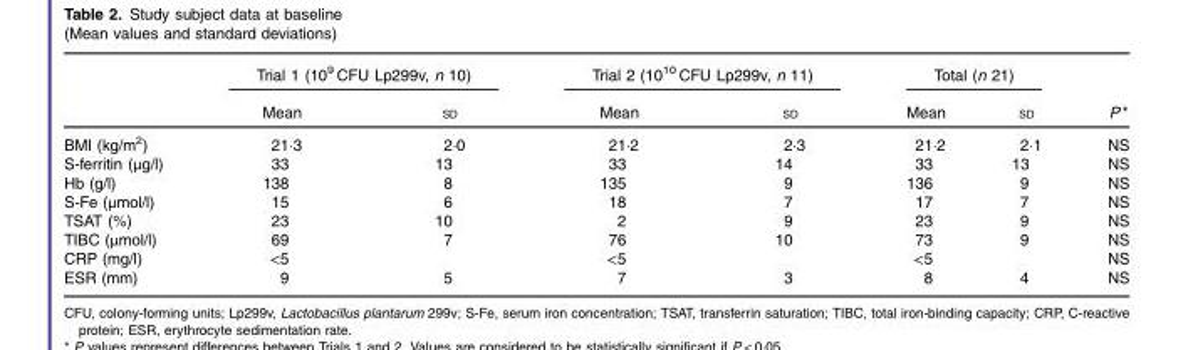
<table><thead><tr><td rowspan="2"></td><td colspan="2">Trial 1 (10<sup>9</sup> CFU Lp299v, n 10)</td><td colspan="2">Trial 2 (10<sup>10</sup> CFU Lp299v, n 11)</td><td colspan="2">Total (n 21)</td><td rowspan="2">P *</td></tr><tr><td>Mean</td><td>SD</td><td>Mean</td><td>SD</td><td>Mean</td><td>SD</td></tr></thead><tbody><tr><td>BMI (kg/m<sup>2</sup>)</td><td>21·3</td><td>2·0</td><td>21·2</td><td>2·3</td><td>21·2</td><td>2·1</td><td>NS</td></tr><tr><td>S-ferritin (μg/l)</td><td>33</td><td>13</td><td>33</td><td>14</td><td>33</td><td>13</td><td>NS</td></tr><tr><td>Hb (g/l)</td><td>138</td><td>8</td><td>135</td><td>9</td><td>136</td><td>9</td><td>NS</td></tr><tr><td>S-Fe (μmol/l)</td><td>15</td><td>6</td><td>18</td><td>7</td><td>17</td><td>7</td><td>NS</td></tr><tr><td>TSAT (%)</td><td>23</td><td>10</td><td>2</td><td>9</td><td>23</td><td>9</td><td>NS</td></tr><tr><td>TIBC (μmol/l)</td><td>69</td><td>7</td><td>76</td><td>10</td><td>73</td><td>9</td><td>NS</td></tr><tr><td>CRP (mg/l)</td><td>&lt;5</td><td></td><td>&lt;5</td><td></td><td>&lt;5</td><td></td><td>NS</td></tr><tr><td>ESR (mm)</td><td>9</td><td>5</td><td>7</td><td>3</td><td>8</td><td>4</td><td>NS</td></tr></tbody></table>